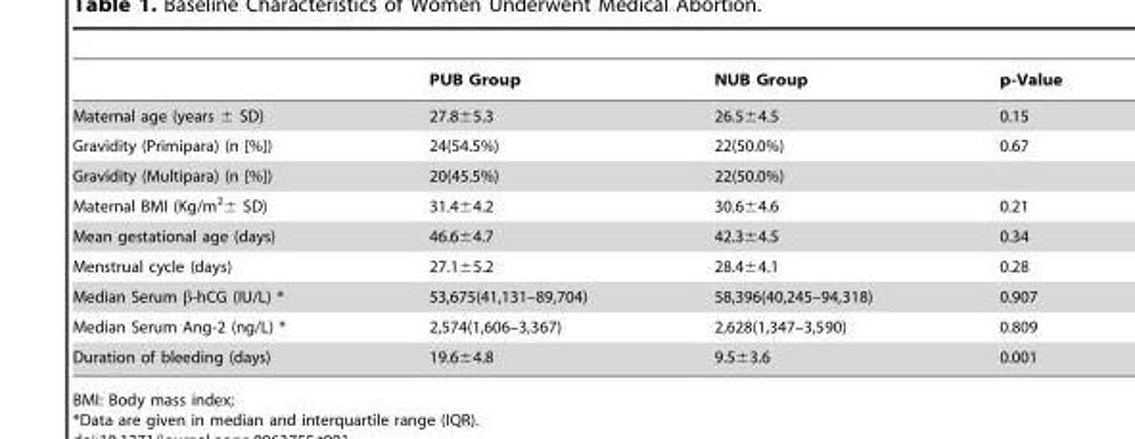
<table><thead><tr><td></td><td>PUB Group</td><td>NUB Group</td><td>p-Value</td></tr></thead><tbody><tr><td>Maternal age (years ± SD)</td><td>27.8±5.3</td><td>26.5±4.5</td><td>0.15</td></tr><tr><td>Gravidity (Primipara) (n [%])</td><td>24(54.5%)</td><td>22(50.0%)</td><td>0.67</td></tr><tr><td>Gravidity (Multipara) (n [%])</td><td>20(45.5%)</td><td>22(50.0%)</td><td></td></tr><tr><td>Maternal BMI (Kg/m<sup>2</sup>± SD)</td><td>31.4±4.2</td><td>30.6±4.6</td><td>0.21</td></tr><tr><td>Mean gestational age (days)</td><td>46.6±4.7</td><td>42.3±4.5</td><td>0.34</td></tr><tr><td>Menstrual cycle (days)</td><td>27.1±5.2</td><td>28.4±4.1</td><td>0.28</td></tr><tr><td>Median Serum β-hCG (IU/L) *</td><td>53,675(41,131–89,704)</td><td>58,396(40,245–94,318)</td><td>0.907</td></tr><tr><td>Median Serum Ang-2 (ng/L) *</td><td>2,574(1,606–3,367)</td><td>2,628(1,347–3,590)</td><td>0.809</td></tr><tr><td>Duration of bleeding (days)</td><td>19.6±4.8</td><td>9.5±3.6</td><td>0.001</td></tr></tbody></table>